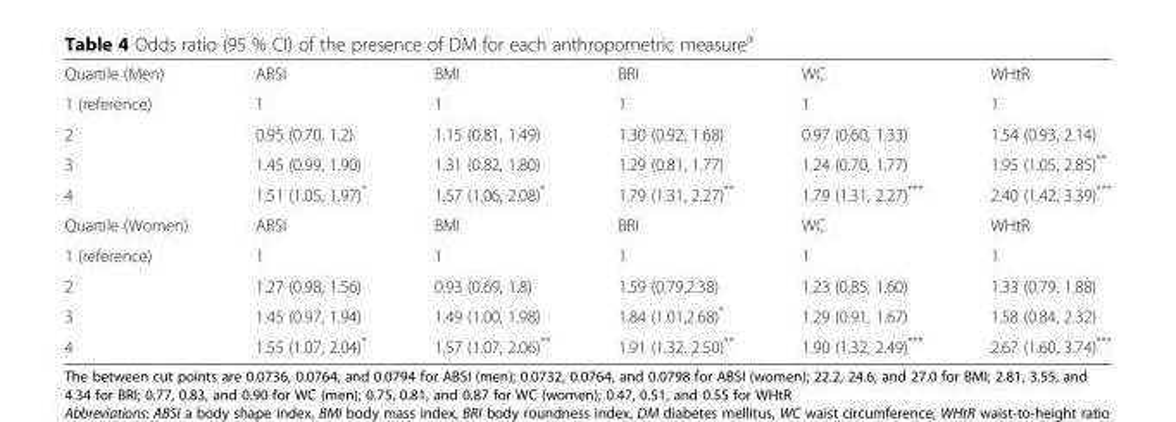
<table><tbody><tr><td>Quartile (Men)</td><td>ABSI</td><td>BMI</td><td>BRI</td><td>WC</td><td>WHtR</td></tr><tr><td>1 (reference)</td><td>1</td><td>1</td><td>1</td><td>1</td><td>1</td></tr><tr><td>2</td><td>0.95 (0.70, 1.2)</td><td>1.15 (0.81, 1.49)</td><td>1.30 (0.92, 1.68)</td><td>0.97 (0.60, 1.33)</td><td>1.54 (0.93, 2.14)</td></tr><tr><td>3</td><td>1.45 (0.99, 1.90)</td><td>1.31 (0.82, 1.80)</td><td>1.29 (0.81, 1.77)</td><td>1.24 (0.70, 1.77)</td><td>1.95 (1.05, 2.85)**</td></tr><tr><td>4</td><td>1.51 (1.05, 1.97)*</td><td>1.57 (1.06, 2.08)*</td><td>1.79 (1.31, 2.27)**</td><td>1.79 (1.31, 2.27)***</td><td>2.40 (1.42, 3.39)***</td></tr><tr><td>Quartile (Women)</td><td>ABSI</td><td>BMI</td><td>BRI</td><td>WC</td><td>WHtR</td></tr><tr><td>1 (reference)</td><td>1</td><td>1</td><td>1</td><td>1</td><td>1</td></tr><tr><td>2</td><td>1.27 (0.98, 1.56)</td><td>0.93 (0.69, 1.8)</td><td>1.59 (0.79,2.38)</td><td>1.23 (0.85, 1.60)</td><td>1.33 (0.79, 1.88)</td></tr><tr><td>3</td><td>1.45 (0.97, 1.94)</td><td>1.49 (1.00, 1.98)</td><td>1.84 (1.01,2.68)*</td><td>1.29 (0.91, 1.67)</td><td>1.58 (0.84, 2.32)</td></tr><tr><td>4</td><td>1.55 (1.07, 2.04)*</td><td>1.57 (1.07, 2.06)**</td><td>1.91 (1.32, 2.50)**</td><td>1.90 (1.32, 2.49)***</td><td>2.67 (1.60, 3.74)***</td></tr></tbody></table>